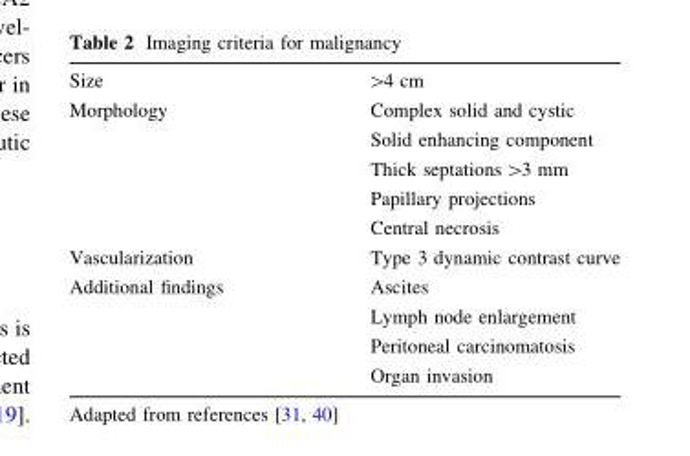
<table><tbody><tr><td>Size</td><td>&gt;4 cm</td></tr><tr><td>Morphology</td><td>Complex solid and cystic Solid enhancing component Thick septations &gt;3 mm Papillary projections Central necrosis</td></tr><tr><td>Vascularization</td><td>Type 3 dynamic contrast curve</td></tr><tr><td>Additional findings</td><td>Ascites Lymph node enlargement Peritoneal carcinomatosis Organ invasion</td></tr></tbody></table>